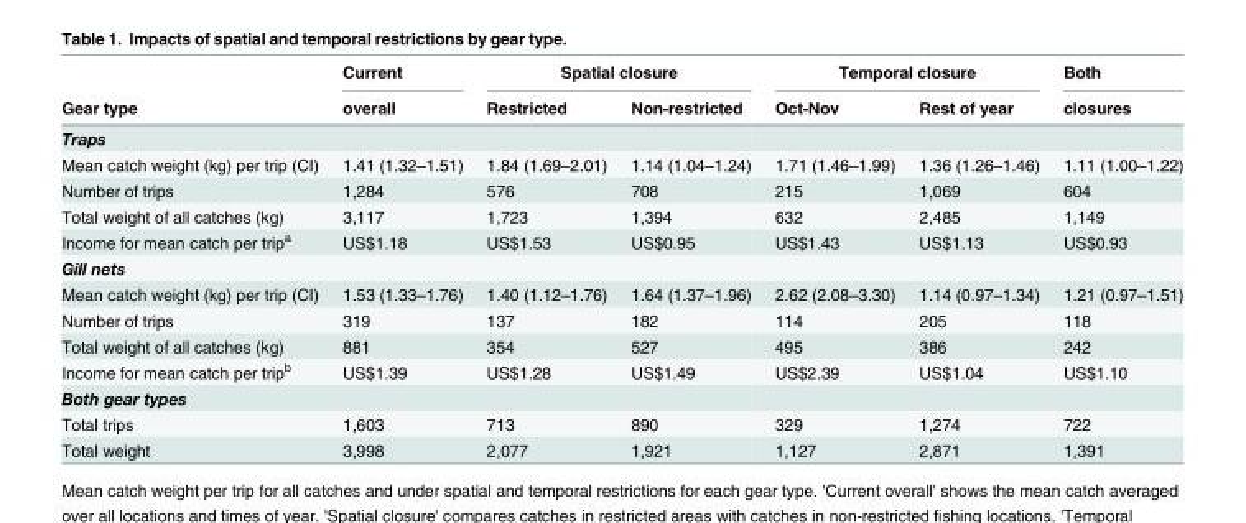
<table><thead><tr><td rowspan="2">Gear type</td><td rowspan="2">Current overall</td><td colspan="2">Spatial closure</td><td colspan="2">Temporal closure</td><td rowspan="2">Both closures</td></tr><tr><td>Restricted</td><td>Non-restricted</td><td>Oct-Nov</td><td>Rest of year</td></tr></thead><tbody><tr><td colspan="7">Traps</td></tr><tr><td>Mean catch weight (kg) per trip (CI)</td><td>1.41 (1.32–1.51)</td><td>1.84 (1.69–2.01)</td><td>1.14 (1.04–1.24)</td><td>1.71 (1.46–1.99)</td><td>1.36 (1.26–1.46)</td><td>1.11 (1.00–1.22)</td></tr><tr><td>Number of trips</td><td>1,284</td><td>576</td><td>708</td><td>215</td><td>1,069</td><td>604</td></tr><tr><td>Total weight of all catches (kg)</td><td>3,117</td><td>1,723</td><td>1,394</td><td>632</td><td>2,485</td><td>1,149</td></tr><tr><td>Income for mean catch per trip<sup>a</sup></td><td>US$1.18</td><td>US$1.53</td><td>US$0.95</td><td>US$1.43</td><td>US$1.13</td><td>US$0.93</td></tr><tr><td colspan="7">Gill nets</td></tr><tr><td>Mean catch weight (kg) per trip (CI)</td><td>1.53 (1.33–1.76)</td><td>1.40 (1.12–1.76)</td><td>1.64 (1.37–1.96)</td><td>2.62 (2.08–3.30)</td><td>1.14 (0.97–1.34)</td><td>1.21 (0.97–1.51)</td></tr><tr><td>Number of trips</td><td>319</td><td>137</td><td>182</td><td>114</td><td>205</td><td>118</td></tr><tr><td>Total weight of all catches (kg)</td><td>881</td><td>354</td><td>527</td><td>495</td><td>386</td><td>242</td></tr><tr><td>Income for mean catch per trip<sup>b</sup></td><td>US$1.39</td><td>US$1.28</td><td>US$1.49</td><td>US$2.39</td><td>US$1.04</td><td>US$1.10</td></tr><tr><td colspan="7">Both gear types</td></tr><tr><td>Total trips</td><td>1,603</td><td>713</td><td>890</td><td>329</td><td>1,274</td><td>722</td></tr><tr><td>Total weight</td><td>3,998</td><td>2,077</td><td>1,921</td><td>1,127</td><td>2,871</td><td>1,391</td></tr></tbody></table>